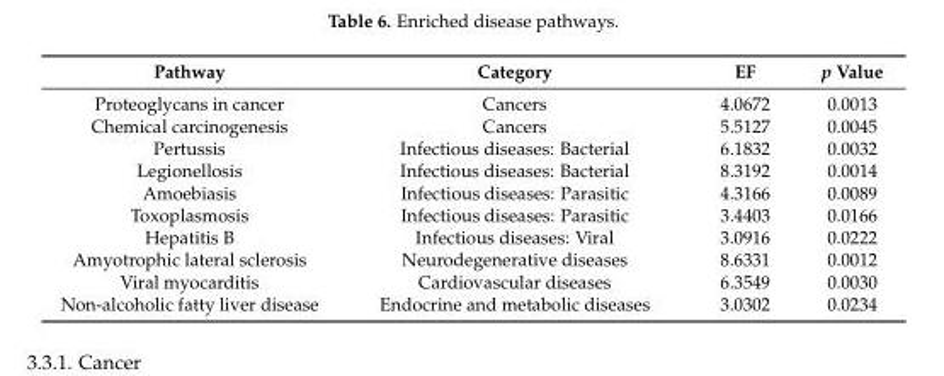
<table><thead><tr><td>Pathway</td><td>Category</td><td>EF</td><td>p Value</td></tr></thead><tbody><tr><td>Proteoglycans in cancer</td><td>Cancers</td><td>4.0672</td><td>0.0013</td></tr><tr><td>Chemical carcinogenesis</td><td>Cancers</td><td>5.5127</td><td>0.0045</td></tr><tr><td>Pertussis</td><td>Infectious diseases: Bacterial</td><td>6.1832</td><td>0.0032</td></tr><tr><td>Legionellosis</td><td>Infectious diseases: Bacterial</td><td>8.3192</td><td>0.0014</td></tr><tr><td>Amoebiasis</td><td>Infectious diseases: Parasitic</td><td>4.3166</td><td>0.0089</td></tr><tr><td>Toxoplasmosis</td><td>Infectious diseases: Parasitic</td><td>3.4403</td><td>0.0166</td></tr><tr><td>Hepatitis B</td><td>Infectious diseases: Viral</td><td>3.0916</td><td>0.0222</td></tr><tr><td>Amyotrophic lateral sclerosis</td><td>Neurodegenerative diseases</td><td>8.6331</td><td>0.0012</td></tr><tr><td>Viral myocarditis</td><td>Cardiovascular diseases</td><td>6.3549</td><td>0.0030</td></tr><tr><td>Non-alcoholic fatty liver disease</td><td>Endocrine and metabolic diseases</td><td>3.0302</td><td>0.0234</td></tr></tbody></table>